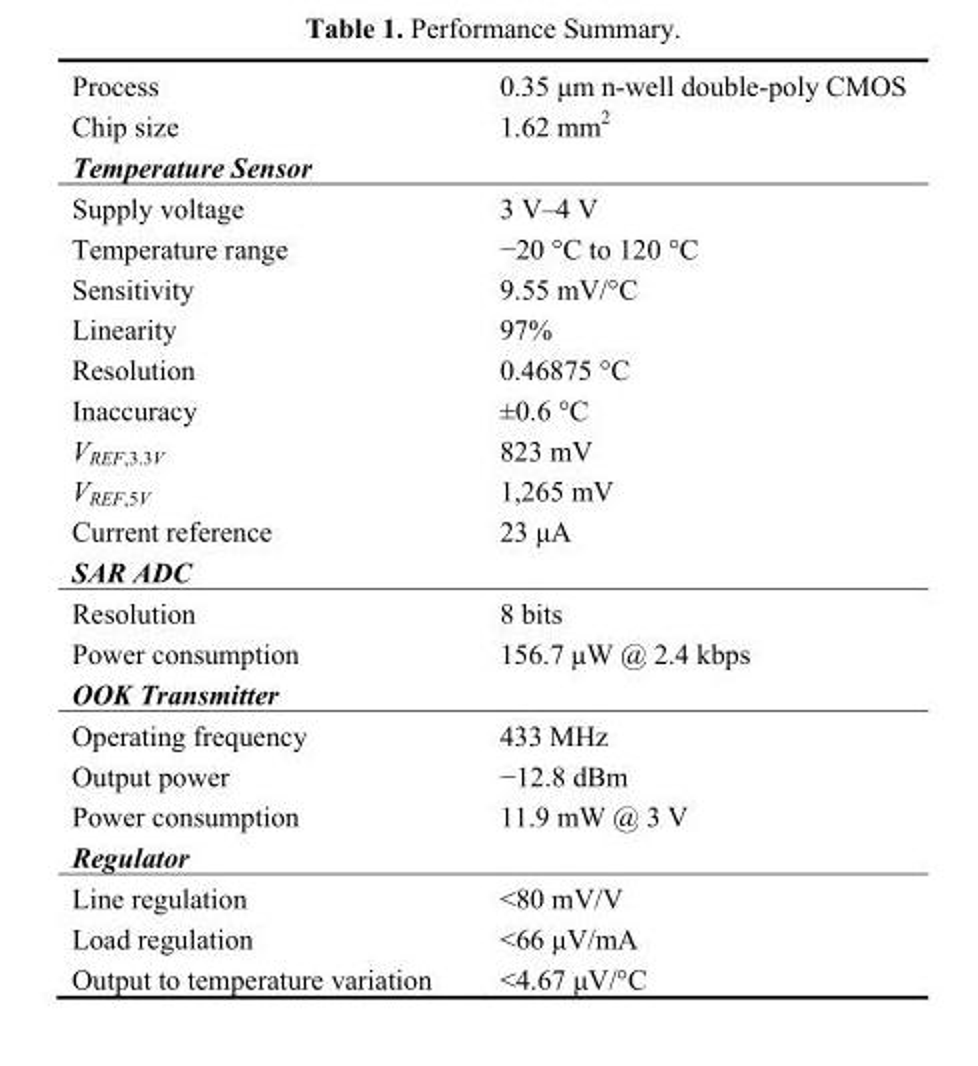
<table><tbody><tr><td>Process</td><td>0.35 μm n-well double-poly CMOS</td></tr><tr><td>Chip size</td><td>1.62 mm<sup>2</sup></td></tr><tr><td colspan="2">Temperature Sensor</td></tr><tr><td>Supply voltage</td><td>3 V–4 V</td></tr><tr><td>Temperature range</td><td>−20 °C to 120 °C</td></tr><tr><td>Sensitivity</td><td>9.55 mV/°C</td></tr><tr><td>Linearity</td><td>97%</td></tr><tr><td>Resolution</td><td>0.46875 °C</td></tr><tr><td>Inaccuracy</td><td>±0.6 °C</td></tr><tr><td>V<sub>REF,3.3V</sub></td><td>823 mV</td></tr><tr><td>V<sub>REF,5V</sub></td><td>1,265 mV</td></tr><tr><td>Current reference</td><td>23 μA</td></tr><tr><td colspan="2">SAR ADC</td></tr><tr><td>Resolution</td><td>8 bits</td></tr><tr><td>Power consumption</td><td>156.7 μW @ 2.4 kbps</td></tr><tr><td colspan="2">OOK Transmitter</td></tr><tr><td>Operating frequency</td><td>433 MHz</td></tr><tr><td>Output power</td><td>−12.8 dBm</td></tr><tr><td>Power consumption</td><td>11.9 mW @ 3 V</td></tr><tr><td colspan="2">Regulator</td></tr><tr><td>Line regulation</td><td>&lt;80 mV/V</td></tr><tr><td>Load regulation</td><td>&lt;66 μV/mA</td></tr><tr><td>Output to temperature variation</td><td>&lt;4.67 μV/°C</td></tr></tbody></table>